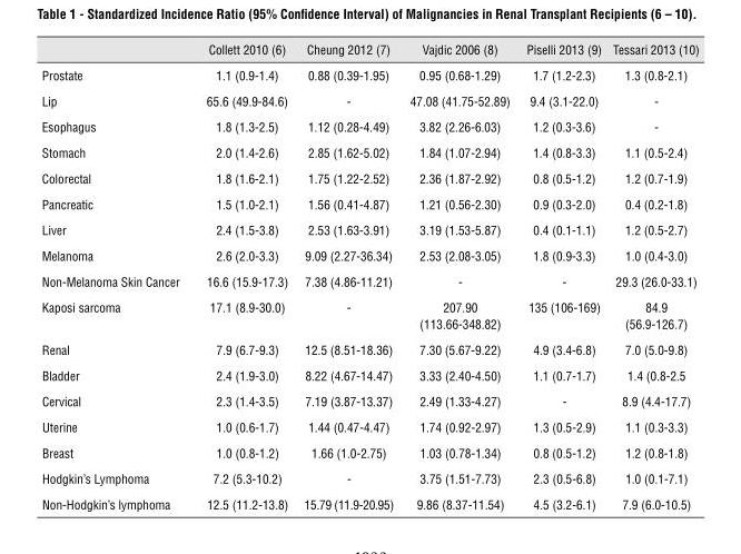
<table><thead><tr><td></td><td>Collett 2010 (6)</td><td>Cheung 2012 (7)</td><td>Vajdic 2006 (8)</td><td>Piselli 2013 (9)</td><td>Tessari 2013 (10)</td></tr></thead><tbody><tr><td>Prostate</td><td>1.1 (0.9-1.4)</td><td>0.88 (0.39-1.95)</td><td>0.95 (0.68-1.29)</td><td>1.7 (1.2-2.3)</td><td>1.3 (0.8-2.1)</td></tr><tr><td>Lip</td><td>65.6 (49.9-84.6)</td><td>-</td><td>47.08 (41.75-52.89)</td><td>9.4 (3.1-22.0)</td><td>-</td></tr><tr><td>Esophagus</td><td>1.8 (1.3-2.5)</td><td>1.12 (0.28-4.49)</td><td>3.82 (2.26-6.03)</td><td>1.2 (0.3-3.6)</td><td>-</td></tr><tr><td>Stomach</td><td>2.0 (1.4-2.6)</td><td>2.85 (1.62-5.02)</td><td>1.84 (1.07-2.94)</td><td>1.4 (0.8-3.3)</td><td>1.1 (0.5-2.4)</td></tr><tr><td>Colorectal</td><td>1.8 (1.6-2.1)</td><td>1.75 (1.22-2.52)</td><td>2.36 (1.87-2.92)</td><td>0.8 (0.5-1.2)</td><td>1.2 (0.7-1.9)</td></tr><tr><td>Pancreatic</td><td>1.5 (1.0-2.1)</td><td>1.56 (0.41-4.87)</td><td>1.21 (0.56-2.30)</td><td>0.9 (0.3-2.0)</td><td>0.4 (0.2-1.8)</td></tr><tr><td>Liver</td><td>2.4 (1.5-3.8)</td><td>2.53 (1.63-3.91)</td><td>3.19 (1.53-5.87)</td><td>0.4 (0.1-1.1)</td><td>1.2 (0.5-2.7)</td></tr><tr><td>Melanoma</td><td>2.6 (2.0-3.3)</td><td>9.09 (2.27-36.34)</td><td>2.53 (2.08-3.05)</td><td>1.8 (0.9-3.3)</td><td>1.0 (0.4-3.0)</td></tr><tr><td>Non-Melanoma Skin Cancer</td><td>16.6 (15.9-17.3)</td><td>7.38 (4.86-11.21)</td><td>-</td><td>-</td><td>29.3 (26.0-33.1)</td></tr><tr><td>Kaposi sarcoma</td><td>17.1 (8.9-30.0)</td><td>-</td><td>207.90 (113.66-348.82)</td><td>135 (106-169)</td><td>84.9 (56.9-126.7)</td></tr><tr><td>Renal</td><td>7.9 (6.7-9.3)</td><td>12.5 (8.51-18.36)</td><td>7.30 (5.67-9.22)</td><td>4.9 (3.4-6.8)</td><td>7.0 (5.0-9.8)</td></tr><tr><td>Bladder</td><td>2.4 (1.9-3.0)</td><td>8.22 (4.67-14.47)</td><td>3.33 (2.40-4.50)</td><td>1.1 (0.7-1.7)</td><td>1.4 (0.8-2.5</td></tr><tr><td>Cervical</td><td>2.3 (1.4-3.5)</td><td>7.19 (3.87-13.37)</td><td>2.49 (1.33-4.27)</td><td>-</td><td>8.9 (4.4-17.7)</td></tr><tr><td>Uterine</td><td>1.0 (0.6-1.7)</td><td>1.44 (0.47-4.47)</td><td>1.74 (0.92-2.97)</td><td>1.3 (0.5-2.9)</td><td>1.1 (0.3-3.3)</td></tr><tr><td>Breast</td><td>1.0 (0.8-1.2)</td><td>1.66 (1.0-2.75)</td><td>1.03 (0.78-1.34)</td><td>0.8 (0.5-1.2)</td><td>1.2 (0.8-1.8)</td></tr><tr><td>Hodgkin’s Lymphoma</td><td>7.2 (5.3-10.2)</td><td>-</td><td>3.75 (1.51-7.73)</td><td>2.3 (0.5-6.8)</td><td>1.0 (0.1-7.1)</td></tr><tr><td>Non-Hodgkin’s lymphoma</td><td>12.5 (11.2-13.8)</td><td>15.79 (11.9-20.95)</td><td>9.86 (8.37-11.54)</td><td>4.5 (3.2-6.1)</td><td>7.9 (6.0-10.5)</td></tr></tbody></table>